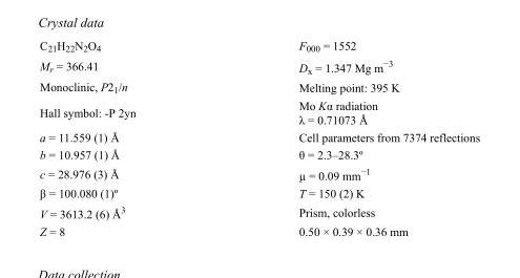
<table><tbody><tr><td>C<sub>21</sub>H<sub>22</sub>N<sub>2</sub>O<sub>4</sub></td><td>F<sub>000</sub> = 1552</td></tr><tr><td>M<sub>r</sub> = 366.41</td><td>D<sub>x</sub> = 1.347 Mg m<sup>−3</sup></td></tr><tr><td>Monoclinic, P2<sub>1</sub>/n</td><td>Melting point: 395 K</td></tr><tr><td>Hall symbol: -P 2yn</td><td>Mo Kα radiation λ = 0.71073 Å</td></tr><tr><td>a = 11.559 (1) Å</td><td>Cell parameters from 7374 reflections</td></tr><tr><td>b = 10.957 (1) Å</td><td>θ = 2.3–28.3º</td></tr><tr><td>c = 28.976 (3) Å</td><td>µ = 0.09 mm<sup>−1</sup></td></tr><tr><td>β = 100.080 (1)º</td><td>T = 150 (2) K</td></tr><tr><td>V = 3613.2 (6) Å<sup>3</sup></td><td>Prism, colorless</td></tr><tr><td>Z = 8</td><td>0.50 × 0.39 × 0.36 mm</td></tr></tbody></table>